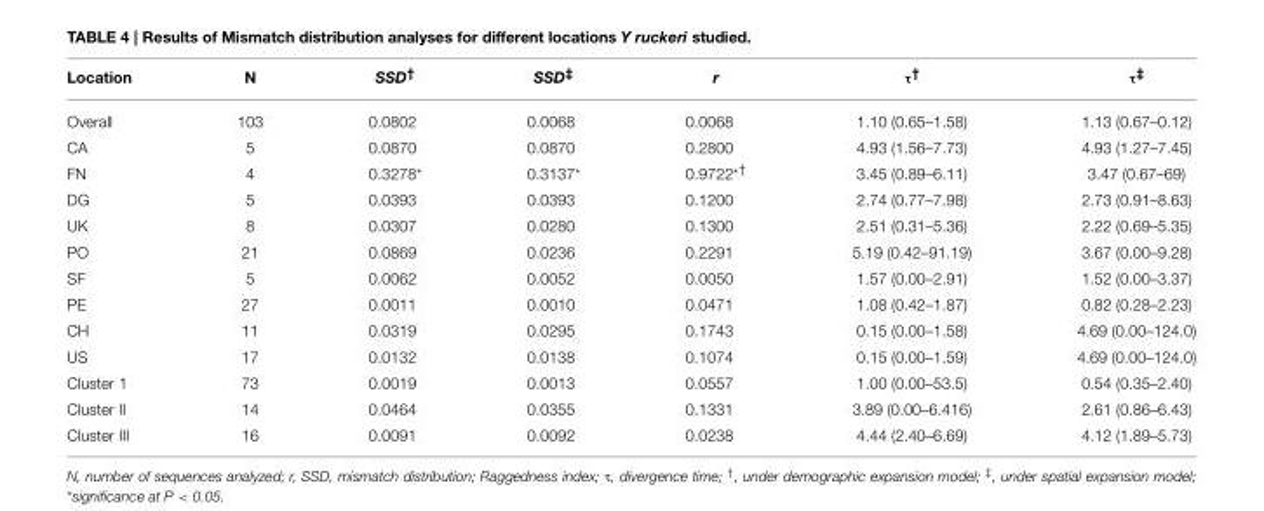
<table><thead><tr><td>Location</td><td>N</td><td>SSD<sup>†</sup></td><td>SSD<sup>‡</sup></td><td>r</td><td>τ<sup>†</sup></td><td>τ<sup>‡</sup></td></tr></thead><tbody><tr><td>Overall</td><td>103</td><td>0.0802</td><td>0.0068</td><td>0.0068</td><td>1.10 (0.65–1.58)</td><td>1.13 (0.67–0.12)</td></tr><tr><td>CA</td><td>5</td><td>0.0870</td><td>0.0870</td><td>0.2800</td><td>4.93 (1.56–7.73)</td><td>4.93 (1.27–7.45)</td></tr><tr><td>FN</td><td>4</td><td>0.3278*</td><td>0.3137*</td><td>0.9722<sup>*†</sup></td><td>3.45 (0.89–6.11)</td><td>3.47 (0.67–69)</td></tr><tr><td>DG</td><td>5</td><td>0.0393</td><td>0.0393</td><td>0.1200</td><td>2.74 (0.77–7.98)</td><td>2.73 (0.91–8.63)</td></tr><tr><td>UK</td><td>8</td><td>0.0307</td><td>0.0280</td><td>0.1300</td><td>2.51 (0.31–5.36)</td><td>2.22 (0.69–5.35)</td></tr><tr><td>PO</td><td>21</td><td>0.0869</td><td>0.0236</td><td>0.2291</td><td>5.19 (0.42–91.19)</td><td>3.67 (0.00–9.28)</td></tr><tr><td>SF</td><td>5</td><td>0.0062</td><td>0.0052</td><td>0.0050</td><td>1.57 (0.00–2.91)</td><td>1.52 (0.00–3.37)</td></tr><tr><td>PE</td><td>27</td><td>0.0011</td><td>0.0010</td><td>0.0471</td><td>1.08 (0.42–1.87)</td><td>0.82 (0.28–2.23)</td></tr><tr><td>CH</td><td>11</td><td>0.0319</td><td>0.0295</td><td>0.1743</td><td>0.15 (0.00–1.58)</td><td>4.69 (0.00–124.0)</td></tr><tr><td>US</td><td>17</td><td>0.0132</td><td>0.0138</td><td>0.1074</td><td>0.15 (0.00–1.59)</td><td>4.69 (0.00–124.0)</td></tr><tr><td>Cluster 1</td><td>73</td><td>0.0019</td><td>0.0013</td><td>0.0557</td><td>1.00 (0.00–53.5)</td><td>0.54 (0.35–2.40)</td></tr><tr><td>Cluster II</td><td>14</td><td>0.0464</td><td>0.0355</td><td>0.1331</td><td>3.89 (0.00–6.416)</td><td>2.61 (0.86–6.43)</td></tr><tr><td>Cluster III</td><td>16</td><td>0.0091</td><td>0.0092</td><td>0.0238</td><td>4.44 (2.40–6.69)</td><td>4.12 (1.89–5.73)</td></tr></tbody></table>